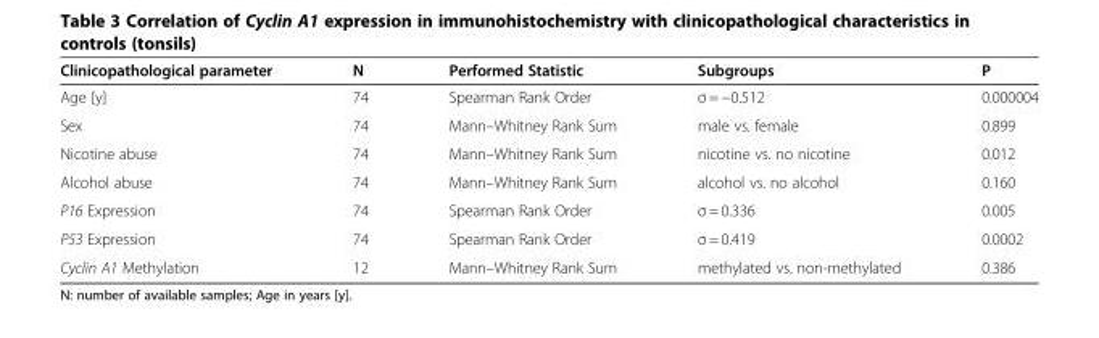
<table><thead><tr><td>Clinicopathological parameter</td><td>N</td><td>Performed Statistic</td><td>Subgroups</td><td>P</td></tr></thead><tbody><tr><td>Age [y]</td><td>74</td><td>Spearman Rank Order</td><td>σ = −0.512</td><td>0.000004</td></tr><tr><td>Sex</td><td>74</td><td>Mann–Whitney Rank Sum</td><td>male vs. female</td><td>0.899</td></tr><tr><td>Nicotine abuse</td><td>74</td><td>Mann–Whitney Rank Sum</td><td>nicotine vs. no nicotine</td><td>0.012</td></tr><tr><td>Alcohol abuse</td><td>74</td><td>Mann–Whitney Rank Sum</td><td>alcohol vs. no alcohol</td><td>0.160</td></tr><tr><td>P16 Expression</td><td>74</td><td>Spearman Rank Order</td><td>σ = 0.336</td><td>0.005</td></tr><tr><td>P53 Expression</td><td>74</td><td>Spearman Rank Order</td><td>σ = 0.419</td><td>0.0002</td></tr><tr><td>Cyclin A1 Methylation</td><td>12</td><td>Mann–Whitney Rank Sum</td><td>methylated vs. non-methylated</td><td>0.386</td></tr></tbody></table>